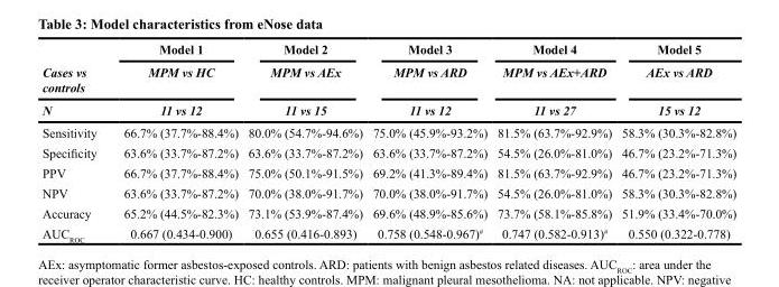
<table><thead><tr><td rowspan="3">Cases vs controls N</td><td rowspan="3">Model 1 MPM vs HC 11 vs 12</td><td rowspan="3">Model 2 MPM vs AEx 11 vs 15</td><td rowspan="3">Model 3 MPM vs ARD 11 vs 12</td><td rowspan="3">Model 4 MPM vs AEx+ARD 11 vs 27</td><td rowspan="3">Model 5 AEx vs ARD 15 vs 12</td></tr><tr></tr><tr></tr></thead><tbody><tr><td>Sensitivity</td><td>66.7% (37.7%-88.4%)</td><td>80.0% (54.7%-94.6%)</td><td>75.0% (45.9%-93.2%)</td><td>81.5% (63.7%-92.9%)</td><td>58.3% (30.3%-82.8%)</td></tr><tr><td>Specificity</td><td>63.6% (33.7%-87.2%)</td><td>63.6% (33.7%-87.2%)</td><td>63.6% (33.7%-87.2%)</td><td>54.5% (26.0%-81.0%)</td><td>46.7% (23.2%-71.3%)</td></tr><tr><td>PPV</td><td>66.7% (37.7%-88.4%)</td><td>75.0% (50.1%-91.5%)</td><td>69.2% (41.3%-89.4%)</td><td>81.5% (63.7%-92.9%)</td><td>46.7% (23.2%-71.3%)</td></tr><tr><td>NPV</td><td>63.6% (33.7%-87.2%)</td><td>70.0% (38.0%-91.7%)</td><td>70.0% (38.0%-91.7%)</td><td>54.5% (26.0%-81.0%)</td><td>58.3% (30.3%-82.8%)</td></tr><tr><td>Accuracy</td><td>65.2% (44.5%-82.3%)</td><td>73.1% (53.9%-87.4%)</td><td>69.6% (48.9%-85.6%)</td><td>73.7% (58.1%-85.8%)</td><td>51.9% (33.4%-70.0%)</td></tr><tr><td>AUC<sub>ROC</sub></td><td>0.667 (0.434-0.900)</td><td>0.655 (0.416-0.893)</td><td>0.758 (0.548-0.967)<sup>#</sup></td><td>0.747 (0.582-0.913)<sup>#</sup></td><td>0.550 (0.322-0.778)</td></tr></tbody></table>